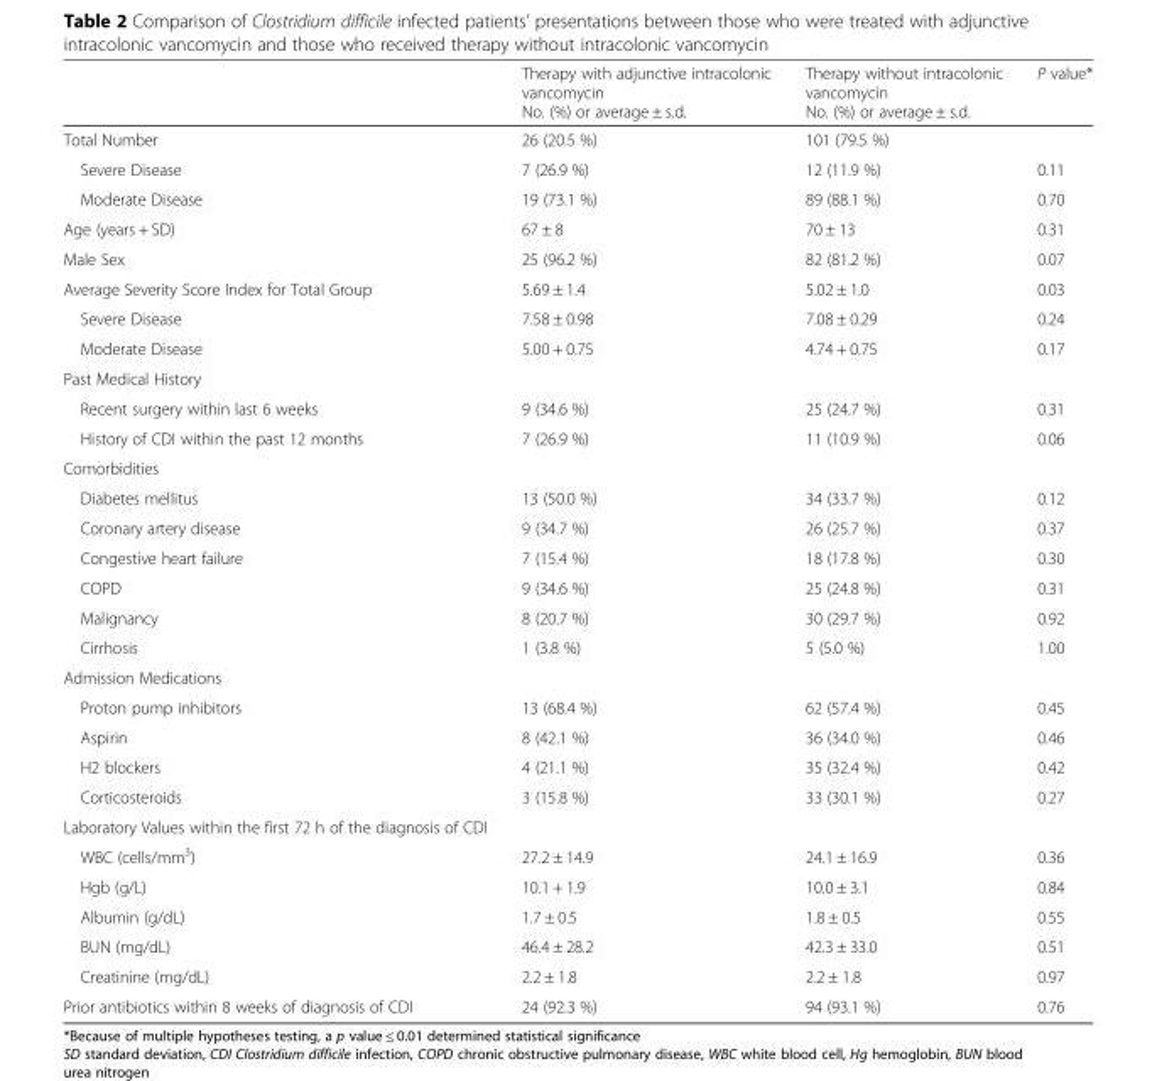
<table><thead><tr><td></td><td>Therapy with adjunctive intracolonic vancomycin No. (%) or average ± s.d.</td><td>Therapy without intracolonic vancomycin No. (%) or average ± s.d.</td><td>P value*</td></tr></thead><tbody><tr><td>Total Number</td><td>26 (20.5 %)</td><td>101 (79.5 %)</td><td></td></tr><tr><td>Severe Disease</td><td>7 (26.9 %)</td><td>12 (11.9 %)</td><td>0.11</td></tr><tr><td>Moderate Disease</td><td>19 (73.1 %)</td><td>89 (88.1 %)</td><td>0.70</td></tr><tr><td>Age (years + SD)</td><td>67 ± 8</td><td>70 ± 13</td><td>0.31</td></tr><tr><td>Male Sex</td><td>25 (96.2 %)</td><td>82 (81.2 %)</td><td>0.07</td></tr><tr><td>Average Severity Score Index for Total Group</td><td>5.69 ± 1.4</td><td>5.02 ± 1.0</td><td>0.03</td></tr><tr><td>Severe Disease</td><td>7.58 ± 0.98</td><td>7.08 ± 0.29</td><td>0.24</td></tr><tr><td>Moderate Disease</td><td>5.00 + 0.75</td><td>4.74 + 0.75</td><td>0.17</td></tr><tr><td colspan="4">Past Medical History</td></tr><tr><td>Recent surgery within last 6 weeks</td><td>9 (34.6 %)</td><td>25 (24.7 %)</td><td>0.31</td></tr><tr><td>History of CDI within the past 12 months</td><td>7 (26.9 %)</td><td>11 (10.9 %)</td><td>0.06</td></tr><tr><td colspan="4">Comorbidities</td></tr><tr><td>Diabetes mellitus</td><td>13 (50.0 %)</td><td>34 (33.7 %)</td><td>0.12</td></tr><tr><td>Coronary artery disease</td><td>9 (34.7 %)</td><td>26 (25.7 %)</td><td>0.37</td></tr><tr><td>Congestive heart failure</td><td>7 (15.4 %)</td><td>18 (17.8 %)</td><td>0.30</td></tr><tr><td>COPD</td><td>9 (34.6 %)</td><td>25 (24.8 %)</td><td>0.31</td></tr><tr><td>Malignancy</td><td>8 (20.7 %)</td><td>30 (29.7 %)</td><td>0.92</td></tr><tr><td>Cirrhosis</td><td>1 (3.8 %)</td><td>5 (5.0 %)</td><td>1.00</td></tr><tr><td colspan="4">Admission Medications</td></tr><tr><td>Proton pump inhibitors</td><td>13 (68.4 %)</td><td>62 (57.4 %)</td><td>0.45</td></tr><tr><td>Aspirin</td><td>8 (42.1 %)</td><td>36 (34.0 %)</td><td>0.46</td></tr><tr><td>H2 blockers</td><td>4 (21.1 %)</td><td>35 (32.4 %)</td><td>0.42</td></tr><tr><td>Corticosteroids</td><td>3 (15.8 %)</td><td>33 (30.1 %)</td><td>0.27</td></tr><tr><td colspan="4">Laboratory Values within the first 72 h of the diagnosis of CDI</td></tr><tr><td>WBC (cells/mm<sup>3</sup>)</td><td>27.2 ± 14.9</td><td>24.1 ± 16.9</td><td>0.36</td></tr><tr><td>Hgb (g/L)</td><td>10.1 + 1.9</td><td>10.0 ± 3.1</td><td>0.84</td></tr><tr><td>Albumin (g/dL)</td><td>1.7 ± 0.5</td><td>1.8 ± 0.5</td><td>0.55</td></tr><tr><td>BUN (mg/dL)</td><td>46.4 ± 28.2</td><td>42.3 ± 33.0</td><td>0.51</td></tr><tr><td>Creatinine (mg/dL)</td><td>2.2 ± 1.8</td><td>2.2 ± 1.8</td><td>0.97</td></tr><tr><td>Prior antibiotics within 8 weeks of diagnosis of CDI</td><td>24 (92.3 %)</td><td>94 (93.1 %)</td><td>0.76</td></tr></tbody></table>